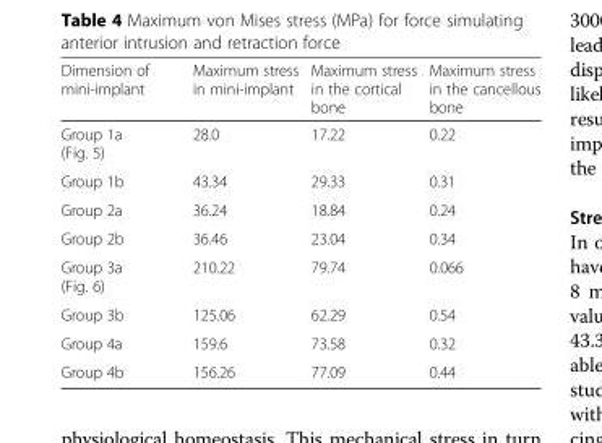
<table><thead><tr><td>Dimension of mini-implant</td><td>Maximum stress in mini-implant</td><td>Maximum stress in the cortical bone</td><td>Maximum stress in the cancellous bone</td></tr></thead><tbody><tr><td>Group 1a (Fig. 5)</td><td>28.0</td><td>17.22</td><td>0.22</td></tr><tr><td>Group 1b</td><td>43.34</td><td>29.33</td><td>0.31</td></tr><tr><td>Group 2a</td><td>36.24</td><td>18.84</td><td>0.24</td></tr><tr><td>Group 2b</td><td>36.46</td><td>23.04</td><td>0.34</td></tr><tr><td>Group 3a (Fig. 6)</td><td>210.22</td><td>79.74</td><td>0.066</td></tr><tr><td>Group 3b</td><td>125.06</td><td>62.29</td><td>0.54</td></tr><tr><td>Group 4a</td><td>159.6</td><td>73.58</td><td>0.32</td></tr><tr><td>Group 4b</td><td>156.26</td><td>77.09</td><td>0.44</td></tr></tbody></table>